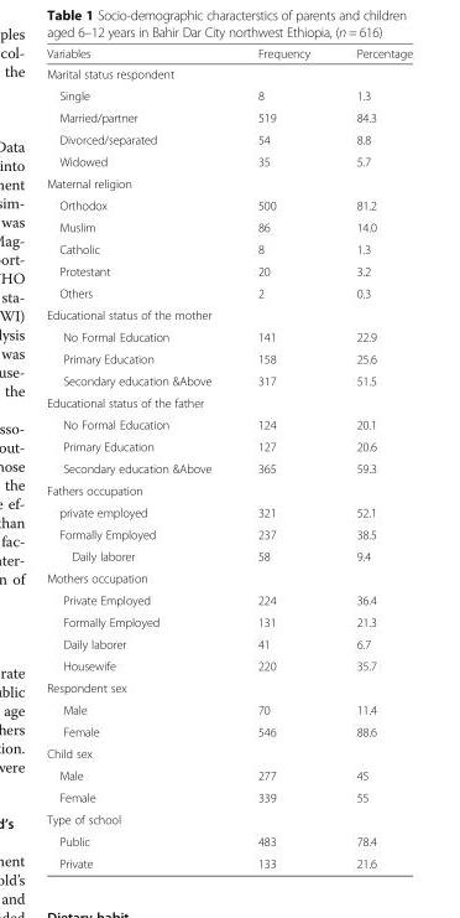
<table><thead><tr><td>Variables</td><td>Frequency</td><td>Percentage</td></tr></thead><tbody><tr><td colspan="3">Marital status respondent</td></tr><tr><td>Single</td><td>8</td><td>1.3</td></tr><tr><td>Married/partner</td><td>519</td><td>84.3</td></tr><tr><td>Divorced/separated</td><td>54</td><td>8.8</td></tr><tr><td>Widowed</td><td>35</td><td>5.7</td></tr><tr><td colspan="3">Maternal religion</td></tr><tr><td>Orthodox</td><td>500</td><td>81.2</td></tr><tr><td>Muslim</td><td>86</td><td>14.0</td></tr><tr><td>Catholic</td><td>8</td><td>1.3</td></tr><tr><td>Protestant</td><td>20</td><td>3.2</td></tr><tr><td>Others</td><td>2</td><td>0.3</td></tr><tr><td colspan="3">Educational status of the mother</td></tr><tr><td>No Formal Education</td><td>141</td><td>22.9</td></tr><tr><td>Primary Education</td><td>158</td><td>25.6</td></tr><tr><td>Secondary education &amp;Above</td><td>317</td><td>51.5</td></tr><tr><td colspan="3">Educational status of the father</td></tr><tr><td>No Formal Education</td><td>124</td><td>20.1</td></tr><tr><td>Primary Education</td><td>127</td><td>20.6</td></tr><tr><td>Secondary education &amp;Above</td><td>365</td><td>59.3</td></tr><tr><td colspan="3">Fathers occupation</td></tr><tr><td>private employed</td><td>321</td><td>52.1</td></tr><tr><td>Formally Employed</td><td>237</td><td>38.5</td></tr><tr><td>Daily laborer</td><td>58</td><td>9.4</td></tr><tr><td colspan="3">Mothers occupation</td></tr><tr><td>Private Employed</td><td>224</td><td>36.4</td></tr><tr><td>Formally Employed</td><td>131</td><td>21.3</td></tr><tr><td>Daily laborer</td><td>41</td><td>6.7</td></tr><tr><td>Housewife</td><td>220</td><td>35.7</td></tr><tr><td colspan="3">Respondent sex</td></tr><tr><td>Male</td><td>70</td><td>11.4</td></tr><tr><td>Female</td><td>546</td><td>88.6</td></tr><tr><td colspan="3">Child sex</td></tr><tr><td>Male</td><td>277</td><td>45</td></tr><tr><td>Female</td><td>339</td><td>55</td></tr><tr><td colspan="3">Type of school</td></tr><tr><td>Public</td><td>483</td><td>78.4</td></tr><tr><td>Private</td><td>133</td><td>21.6</td></tr></tbody></table>